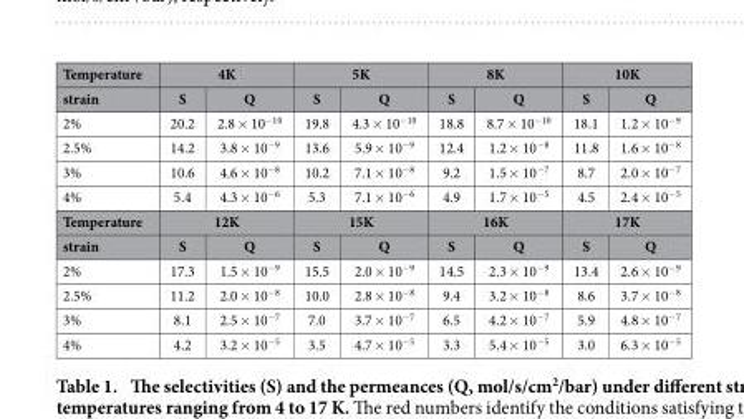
<table><thead><tr><td rowspan="2">Temperature strain</td><td colspan="2">4K</td><td colspan="2">5K</td><td colspan="2">8K</td><td colspan="2">10K</td></tr><tr><td>S</td><td>Q</td><td>S</td><td>Q</td><td>S</td><td>Q</td><td>S</td><td>Q</td></tr></thead><tbody><tr><td>2%</td><td>20.2</td><td>2.8 × 10<sup>−10</sup></td><td>19.8</td><td>4.3 × 10<sup>−10</sup></td><td>18.8</td><td>8.7 × 10<sup>−10</sup></td><td>18.1</td><td>1.2 × 10<sup>−9</sup></td></tr><tr><td>2.5%</td><td>14.2</td><td>3.8 × 10<sup>−9</sup></td><td>13.6</td><td>5.9 × 10<sup>−9</sup></td><td>12.4</td><td>1.2 × 10<sup>−8</sup></td><td>11.8</td><td>1.6 × 10<sup>−8</sup></td></tr><tr><td>3%</td><td>10.6</td><td>4.6 × 10<sup>−8</sup></td><td>10.2</td><td>7.1 × 10<sup>−8</sup></td><td>9.2</td><td>1.5 × 10<sup>−7</sup></td><td>8.7</td><td>2.0 × 10<sup>−7</sup></td></tr><tr><td>4%</td><td>5.4</td><td>4.3 × 10<sup>−6</sup></td><td>5.3</td><td>7.1 × 10<sup>−6</sup></td><td>4.9</td><td>1.7 × 10<sup>−5</sup></td><td>4.5</td><td>2.4 × 10<sup>−5</sup></td></tr><tr><td>Temperature</td><td colspan="2">12K</td><td colspan="2">15K</td><td colspan="2">16K</td><td colspan="2">17K</td></tr><tr><td>strain</td><td>S</td><td>Q</td><td>S</td><td>Q</td><td>S</td><td>Q</td><td>S</td><td>Q</td></tr><tr><td>2%</td><td>17.3</td><td>1.5 × 10<sup>−9</sup></td><td>15.5</td><td>2.0 × 10<sup>−9</sup></td><td>14.5</td><td>2.3 × 10<sup>−9</sup></td><td>13.4</td><td>2.6 × 10<sup>−9</sup></td></tr><tr><td>2.5%</td><td>11.2</td><td>2.0 × 10<sup>−8</sup></td><td>10.0</td><td>2.8 × 10<sup>−8</sup></td><td>9.4</td><td>3.2 × 10<sup>−8</sup></td><td>8.6</td><td>3.7 × 10<sup>−8</sup></td></tr><tr><td>3%</td><td>8.1</td><td>2.5 × 10<sup>−7</sup></td><td>7.0</td><td>3.7 × 10<sup>−7</sup></td><td>6.5</td><td>4.2 × 10<sup>−7</sup></td><td>5.9</td><td>4.8 × 10<sup>−7</sup></td></tr><tr><td>4%</td><td>4.2</td><td>3.2 × 10<sup>−5</sup></td><td>3.5</td><td>4.7 × 10<sup>−5</sup></td><td>3.3</td><td>5.4 × 10<sup>−5</sup></td><td>3.0</td><td>6.3 × 10<sup>−5</sup></td></tr></tbody></table>